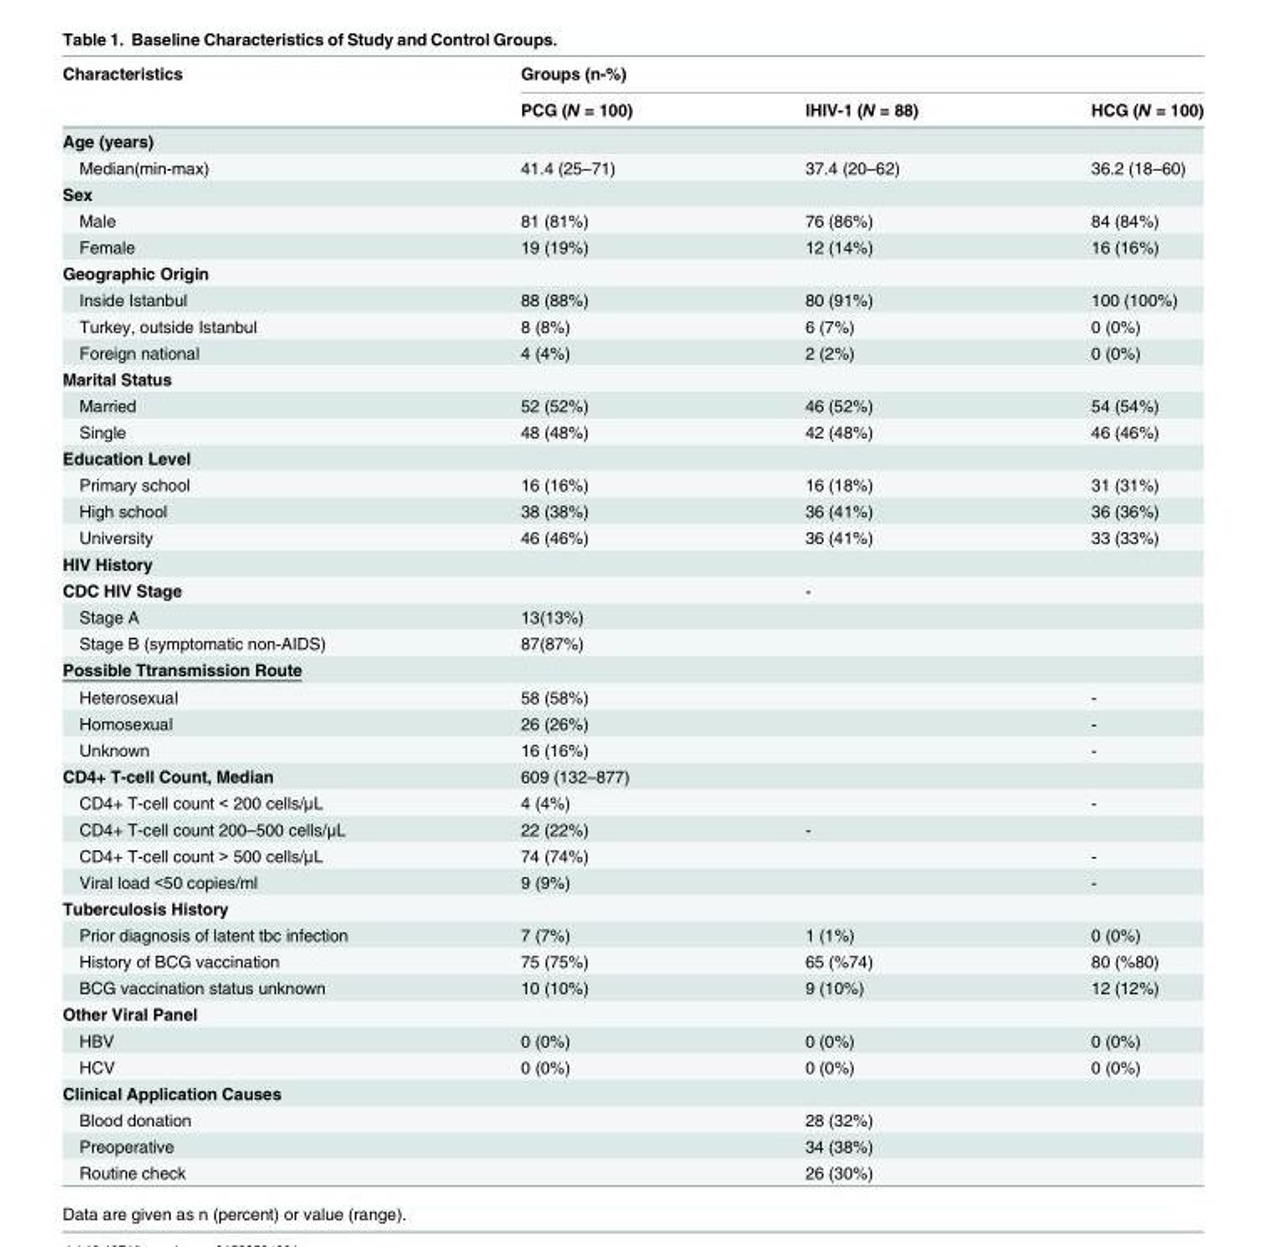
<table><thead><tr><td rowspan="2">Characteristics</td><td colspan="3">Groups (n-%)</td></tr><tr><td>PCG (N = 100)</td><td>IHIV-1 (N = 88)</td><td>HCG (N = 100)</td></tr></thead><tbody><tr><td colspan="4">Age (years)</td></tr><tr><td>Median(min-max)</td><td>41.4 (25–71)</td><td>37.4 (20–62)</td><td>36.2 (18–60)</td></tr><tr><td colspan="4">Sex</td></tr><tr><td>Male</td><td>81 (81%)</td><td>76 (86%)</td><td>84 (84%)</td></tr><tr><td>Female</td><td>19 (19%)</td><td>12 (14%)</td><td>16 (16%)</td></tr><tr><td colspan="4">Geographic Origin</td></tr><tr><td>Inside Istanbul</td><td>88 (88%)</td><td>80 (91%)</td><td>100 (100%)</td></tr><tr><td>Turkey, outside Istanbul</td><td>8 (8%)</td><td>6 (7%)</td><td>0 (0%)</td></tr><tr><td>Foreign national</td><td>4 (4%)</td><td>2 (2%)</td><td>0 (0%)</td></tr><tr><td colspan="4">Marital Status</td></tr><tr><td>Married</td><td>52 (52%)</td><td>46 (52%)</td><td>54 (54%)</td></tr><tr><td>Single</td><td>48 (48%)</td><td>42 (48%)</td><td>46 (46%)</td></tr><tr><td colspan="4">Education Level</td></tr><tr><td>Primary school</td><td>16 (16%)</td><td>16 (18%)</td><td>31 (31%)</td></tr><tr><td>High school</td><td>38 (38%)</td><td>36 (41%)</td><td>36 (36%)</td></tr><tr><td>University</td><td>46 (46%)</td><td>36 (41%)</td><td>33 (33%)</td></tr><tr><td colspan="4">HIV History</td></tr><tr><td>CDC HIV Stage</td><td></td><td>-</td><td></td></tr><tr><td>Stage A</td><td>13(13%)</td><td></td><td></td></tr><tr><td>Stage B (symptomatic non-AIDS)</td><td>87(87%)</td><td></td><td></td></tr><tr><td colspan="4">Possible Ttransmission Route</td></tr><tr><td>Heterosexual</td><td>58 (58%)</td><td></td><td>-</td></tr><tr><td>Homosexual</td><td>26 (26%)</td><td></td><td>-</td></tr><tr><td>Unknown</td><td>16 (16%)</td><td></td><td>-</td></tr><tr><td>CD4+ T-cell Count, Median</td><td>609 (132–877)</td><td></td><td></td></tr><tr><td>CD4+ T-cell count &lt; 200 cells/μL</td><td>4 (4%)</td><td></td><td>-</td></tr><tr><td>CD4+ T-cell count 200–500 cells/μL</td><td>22 (22%)</td><td>-</td><td></td></tr><tr><td>CD4+ T-cell count &gt; 500 cells/μL</td><td>74 (74%)</td><td></td><td>-</td></tr><tr><td>Viral load &lt;50 copies/ml</td><td>9 (9%)</td><td></td><td>-</td></tr><tr><td colspan="4">Tuberculosis History</td></tr><tr><td>Prior diagnosis of latent tbc infection</td><td>7 (7%)</td><td>1 (1%)</td><td>0 (0%)</td></tr><tr><td>History of BCG vaccination</td><td>75 (75%)</td><td>65 (%74)</td><td>80 (%80)</td></tr><tr><td>BCG vaccination status unknown</td><td>10 (10%)</td><td>9 (10%)</td><td>12 (12%)</td></tr><tr><td colspan="4">Other Viral Panel</td></tr><tr><td>HBV</td><td>0 (0%)</td><td>0 (0%)</td><td>0 (0%)</td></tr><tr><td>HCV</td><td>0 (0%)</td><td>0 (0%)</td><td>0 (0%)</td></tr><tr><td colspan="4">Clinical Application Causes</td></tr><tr><td>Blood donation</td><td></td><td>28 (32%)</td><td></td></tr><tr><td>Preoperative</td><td></td><td>34 (38%)</td><td></td></tr><tr><td>Routine check</td><td></td><td>26 (30%)</td><td></td></tr></tbody></table>